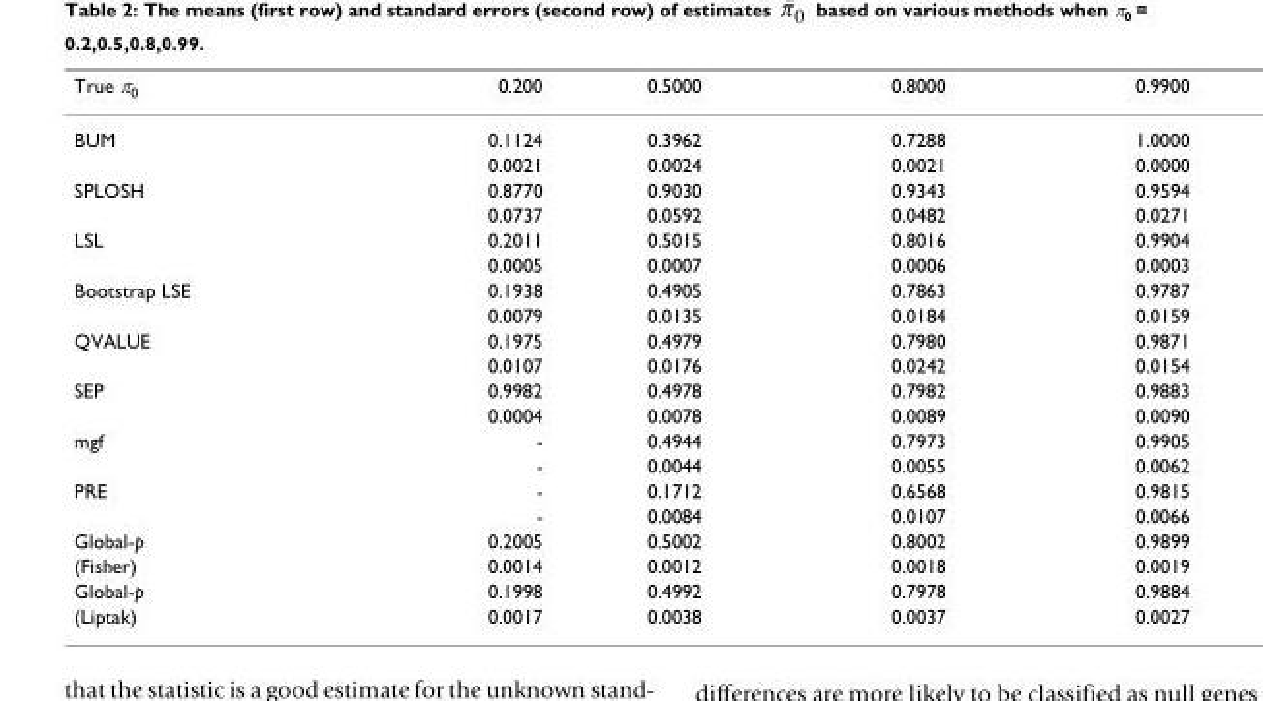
<table><thead><tr><td>True π0</td><td>0.200</td><td>0.5000</td><td>0.8000</td><td>0.9900</td></tr></thead><tbody><tr><td rowspan="2">BUM</td><td>0.1124</td><td>0.3962</td><td>0.7288</td><td>1.0000</td></tr><tr><td>0.0021</td><td>0.0024</td><td>0.0021</td><td>0.0000</td></tr><tr><td rowspan="2">SPLOSH</td><td>0.8770</td><td>0.9030</td><td>0.9343</td><td>0.9594</td></tr><tr><td>0.0737</td><td>0.0592</td><td>0.0482</td><td>0.0271</td></tr><tr><td rowspan="2">LSL</td><td>0.2011</td><td>0.5015</td><td>0.8016</td><td>0.9904</td></tr><tr><td>0.0005</td><td>0.0007</td><td>0.0006</td><td>0.0003</td></tr><tr><td rowspan="2">Bootstrap LSE</td><td>0.1938</td><td>0.4905</td><td>0.7863</td><td>0.9787</td></tr><tr><td>0.0079</td><td>0.0135</td><td>0.0184</td><td>0.0159</td></tr><tr><td rowspan="2">QVALUE</td><td>0.1975</td><td>0.4979</td><td>0.7980</td><td>0.9871</td></tr><tr><td>0.0107</td><td>0.0176</td><td>0.0242</td><td>0.0154</td></tr><tr><td rowspan="2">SEP</td><td>0.9982</td><td>0.4978</td><td>0.7982</td><td>0.9883</td></tr><tr><td>0.0004</td><td>0.0078</td><td>0.0089</td><td>0.0090</td></tr><tr><td rowspan="2">mgf</td><td>-</td><td>0.4944</td><td>0.7973</td><td>0.9905</td></tr><tr><td>-</td><td>0.0044</td><td>0.0055</td><td>0.0062</td></tr><tr><td rowspan="2">PRE</td><td>-</td><td>0.1712</td><td>0.6568</td><td>0.9815</td></tr><tr><td>-</td><td>0.0084</td><td>0.0107</td><td>0.0066</td></tr><tr><td>Global-p</td><td>0.2005</td><td>0.5002</td><td>0.8002</td><td>0.9899</td></tr><tr><td>(Fisher)</td><td>0.0014</td><td>0.0012</td><td>0.0018</td><td>0.0019</td></tr><tr><td>Global-p</td><td>0.1998</td><td>0.4992</td><td>0.7978</td><td>0.9884</td></tr><tr><td>(Liptak)</td><td>0.0017</td><td>0.0038</td><td>0.0037</td><td>0.0027</td></tr></tbody></table>